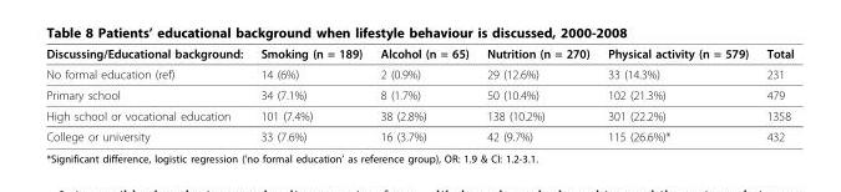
<table><thead><tr><td>Discussing/Educational background:</td><td>Smoking (n = 189)</td><td>Alcohol (n = 65)</td><td>Nutrition (n = 270)</td><td>Physical activity (n = 579)</td><td>Total</td></tr></thead><tbody><tr><td>No formal education (ref)</td><td>14 (6%)</td><td>2 (0.9%)</td><td>29 (12.6%)</td><td>33 (14.3%)</td><td>231</td></tr><tr><td>Primary school</td><td>34 (7.1%)</td><td>8 (1.7%)</td><td>50 (10.4%)</td><td>102 (21.3%)</td><td>479</td></tr><tr><td>High school or vocational education</td><td>101 (7.4%)</td><td>38 (2.8%)</td><td>138 (10.2%)</td><td>301 (22.2%)</td><td>1358</td></tr><tr><td>College or university</td><td>33 (7.6%)</td><td>16 (3.7%)</td><td>42 (9.7%)</td><td>115 (26.6%)*</td><td>432</td></tr></tbody></table>